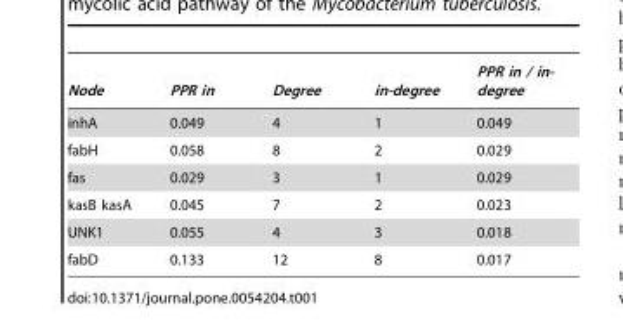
<table><thead><tr><td>Node</td><td>PPR in</td><td>Degree</td><td>in-degree</td><td>PPR in / in- degree</td></tr></thead><tbody><tr><td>inhA</td><td>0.049</td><td>4</td><td>1</td><td>0.049</td></tr><tr><td>fabH</td><td>0.058</td><td>8</td><td>2</td><td>0.029</td></tr><tr><td>fas</td><td>0.029</td><td>3</td><td>1</td><td>0.029</td></tr><tr><td>kasB kasA</td><td>0.045</td><td>7</td><td>2</td><td>0.023</td></tr><tr><td>UNK1</td><td>0.055</td><td>4</td><td>3</td><td>0.018</td></tr><tr><td>fabD</td><td>0.133</td><td>12</td><td>8</td><td>0.017</td></tr></tbody></table>